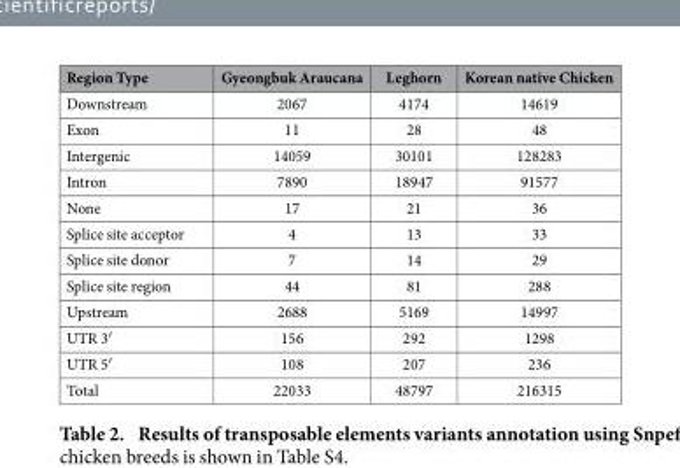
<table><thead><tr><td>Region Type</td><td>Gyeongbuk Araucana</td><td>Leghorn</td><td>Korean native Chicken</td></tr></thead><tbody><tr><td>Downstream</td><td>2067</td><td>4174</td><td>14619</td></tr><tr><td>Exon</td><td>11</td><td>28</td><td>48</td></tr><tr><td>Intergenic</td><td>14059</td><td>30101</td><td>128283</td></tr><tr><td>Intron</td><td>7890</td><td>18947</td><td>91577</td></tr><tr><td>None</td><td>17</td><td>21</td><td>36</td></tr><tr><td>Splice site acceptor</td><td>4</td><td>13</td><td>33</td></tr><tr><td>Splice site donor</td><td>7</td><td>14</td><td>29</td></tr><tr><td>Splice site region</td><td>44</td><td>81</td><td>288</td></tr><tr><td>Upstream</td><td>2688</td><td>5169</td><td>14997</td></tr><tr><td>UTR 3′</td><td>156</td><td>292</td><td>1298</td></tr><tr><td>UTR 5′</td><td>108</td><td>207</td><td>236</td></tr><tr><td>Total</td><td>22033</td><td>48797</td><td>216315</td></tr></tbody></table>